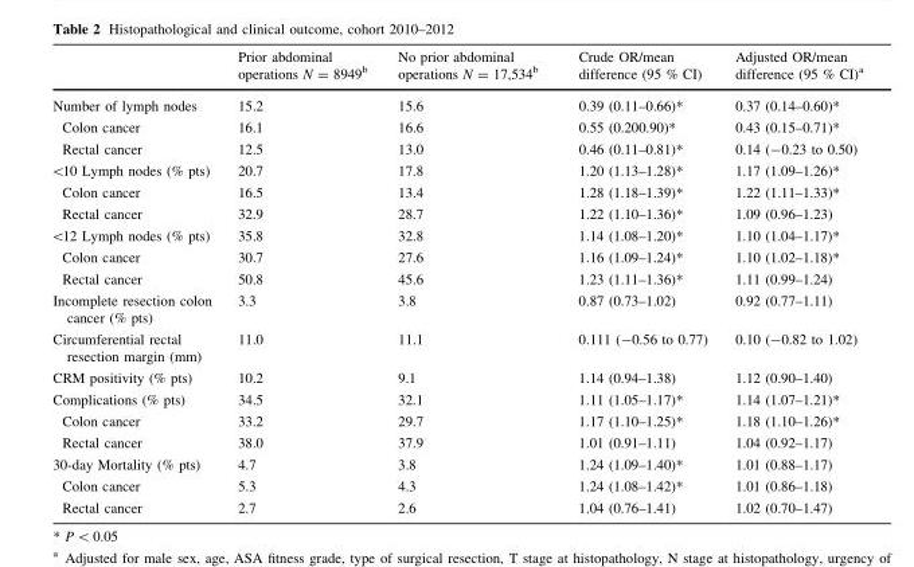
<table><thead><tr><td></td><td>Prior abdominal operations N = 8949<sup>b</sup></td><td>No prior abdominal operations N = 17,534<sup>b</sup></td><td>Crude OR/mean difference (95 % CI)</td><td>Adjusted OR/mean difference (95 % CI)<sup>a</sup></td></tr></thead><tbody><tr><td>Number of lymph nodes</td><td>15.2</td><td>15.6</td><td>0.39 (0.11–0.66)*</td><td>0.37 (0.14–0.60)*</td></tr><tr><td>Colon cancer</td><td>16.1</td><td>16.6</td><td>0.55 (0.200.90)*</td><td>0.43 (0.15–0.71)*</td></tr><tr><td>Rectal cancer</td><td>12.5</td><td>13.0</td><td>0.46 (0.11–0.81)*</td><td>0.14 (-0.23 to 0.50)</td></tr><tr><td>&lt;10 Lymph nodes (% pts)</td><td>20.7</td><td>17.8</td><td>1.20 (1.13–1.28)*</td><td>1.17 (1.09–1.26)*</td></tr><tr><td>Colon cancer</td><td>16.5</td><td>13.4</td><td>1.28 (1.18–1.39)*</td><td>1.22 (1.11–1.33)*</td></tr><tr><td>Rectal cancer</td><td>32.9</td><td>28.7</td><td>1.22 (1.10–1.36)*</td><td>1.09 (0.96–1.23)</td></tr><tr><td>&lt;12 Lymph nodes (% pts)</td><td>35.8</td><td>32.8</td><td>1.14 (1.08–1.20)*</td><td>1.10 (1.04–1.17)*</td></tr><tr><td>Colon cancer</td><td>30.7</td><td>27.6</td><td>1.16 (1.09–1.24)*</td><td>1.10 (1.02–1.18)*</td></tr><tr><td>Rectal cancer</td><td>50.8</td><td>45.6</td><td>1.23 (1.11–1.36)*</td><td>1.11 (0.99–1.24)</td></tr><tr><td>Incomplete resection colon cancer (% pts)</td><td>3.3</td><td>3.8</td><td>0.87 (0.73–1.02)</td><td>0.92 (0.77–1.11)</td></tr><tr><td>Circumferential rectal resection margin (mm)</td><td>11.0</td><td>11.1</td><td>0.111 (-0.56 to 0.77)</td><td>0.10 (-0.82 to 1.02)</td></tr><tr><td>CRM positivity (% pts)</td><td>10.2</td><td>9.1</td><td>1.14 (0.94–1.38)</td><td>1.12 (0.90–1.40)</td></tr><tr><td>Complications (% pts)</td><td>34.5</td><td>32.1</td><td>1.11 (1.05–1.17)*</td><td>1.14 (1.07–1.21)*</td></tr><tr><td>Colon cancer</td><td>33.2</td><td>29.7</td><td>1.17 (1.10–1.25)*</td><td>1.18 (1.10–1.26)*</td></tr><tr><td>Rectal cancer</td><td>38.0</td><td>37.9</td><td>1.01 (0.91–1.11)</td><td>1.04 (0.92–1.17)</td></tr><tr><td>30-day Mortality (% pts)</td><td>4.7</td><td>3.8</td><td>1.24 (1.09–1.40)*</td><td>1.01 (0.88–1.17)</td></tr><tr><td>Colon cancer</td><td>5.3</td><td>4.3</td><td>1.24 (1.08–1.42)*</td><td>1.01 (0.86–1.18)</td></tr><tr><td>Rectal cancer</td><td>2.7</td><td>2.6</td><td>1.04 (0.76–1.41)</td><td>1.02 (0.70–1.47)</td></tr></tbody></table>